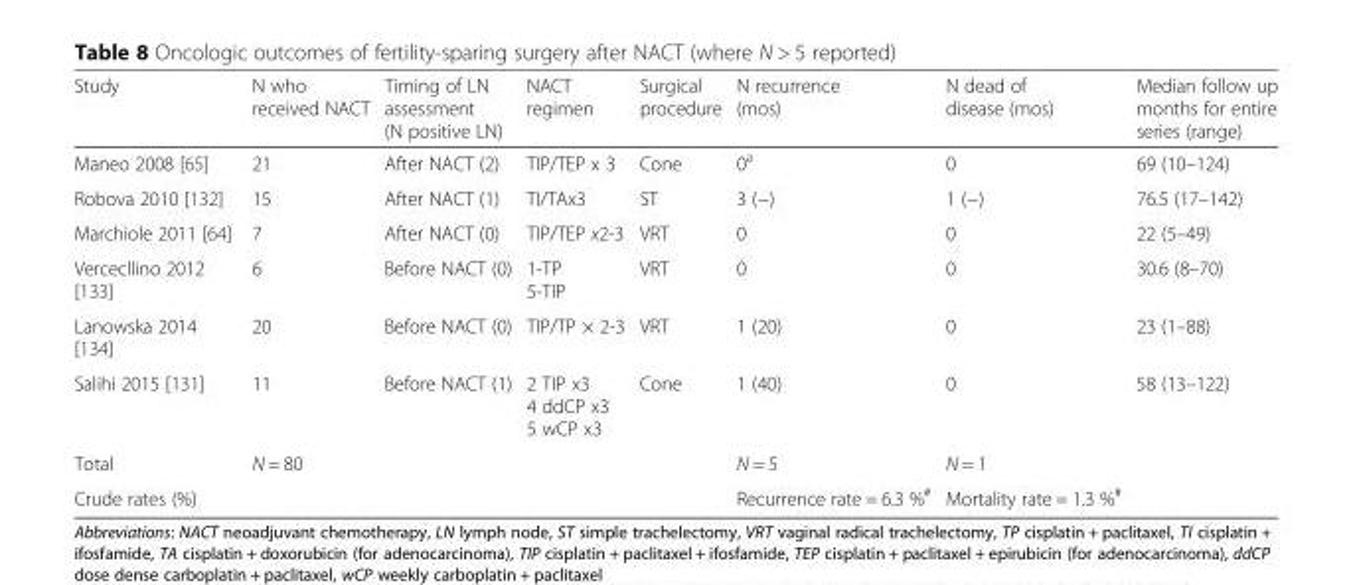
<table><thead><tr><td>Study</td><td>N who received NACT</td><td>Timing of LN assessment (N positive LN)</td><td>NACT regimen</td><td>Surgical procedure</td><td>N recurrence (mos)</td><td>N dead of disease (mos)</td><td>Median follow up months for entire series (range)</td></tr></thead><tbody><tr><td>Maneo 2008 [65]</td><td>21</td><td>After NACT (2)</td><td>TIP/TEP x 3</td><td>Cone</td><td>0<sup>a</sup></td><td>0</td><td>69 (10–124)</td></tr><tr><td>Robova 2010 [132]</td><td>15</td><td>After NACT (1)</td><td>TI/TAx3</td><td>ST</td><td>3 (−)</td><td>1 (−)</td><td>76.5 (17–142)</td></tr><tr><td>Marchiole 2011 [64]</td><td>7</td><td>After NACT (0)</td><td>TIP/TEP x2-3</td><td>VRT</td><td>0</td><td>0</td><td>22 (5–49)</td></tr><tr><td>Vercecllino 2012 [133]</td><td>6</td><td>Before NACT (0)</td><td>1-TP 5-TIP</td><td>VRT</td><td>0</td><td>0</td><td>30.6 (8–70)</td></tr><tr><td>Lanowska 2014 [134]</td><td>20</td><td>Before NACT (0)</td><td>TIP/TP × 2-3</td><td>VRT</td><td>1 (20)</td><td>0</td><td>23 (1–88)</td></tr><tr><td>Salihi 2015 [131]</td><td>11</td><td>Before NACT (1)</td><td>2 TIP x3 4 ddCP x3 5 wCP x3</td><td>Cone</td><td>1 (40)</td><td>0</td><td>58 (13–122)</td></tr><tr><td>Total</td><td>N = 80</td><td></td><td></td><td></td><td>N = 5</td><td>N = 1</td><td></td></tr><tr><td>Crude rates (%)</td><td></td><td></td><td></td><td></td><td>Recurrence rate = 6.3 %<sup>#</sup></td><td>Mortality rate = 1.3 %<sup>#</sup></td><td></td></tr></tbody></table>